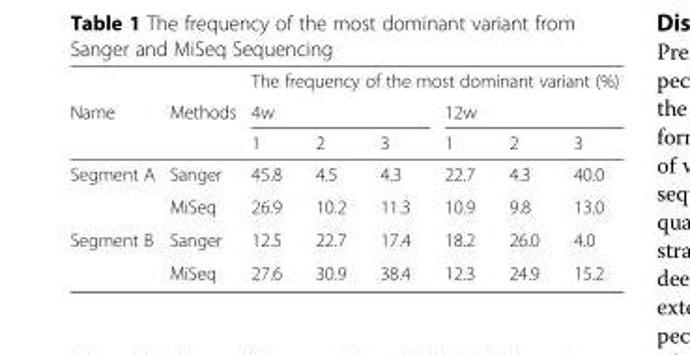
<table><thead><tr><td rowspan="3">Name</td><td rowspan="3">Methods</td><td colspan="6">The frequency of the most dominant variant (%)</td></tr><tr><td colspan="3">4w</td><td colspan="3">12w</td></tr><tr><td>1</td><td>2</td><td>3</td><td>1</td><td>2</td><td>3</td></tr></thead><tbody><tr><td rowspan="2">Segment A</td><td>Sanger</td><td>45.8</td><td>4.5</td><td>4.3</td><td>22.7</td><td>4.3</td><td>40.0</td></tr><tr><td>MiSeq</td><td>26.9</td><td>10.2</td><td>11.3</td><td>10.9</td><td>9.8</td><td>13.0</td></tr><tr><td rowspan="2">Segment B</td><td>Sanger</td><td>12.5</td><td>22.7</td><td>17.4</td><td>18.2</td><td>26.0</td><td>4.0</td></tr><tr><td>MiSeq</td><td>27.6</td><td>30.9</td><td>38.4</td><td>12.3</td><td>24.9</td><td>15.2</td></tr></tbody></table>